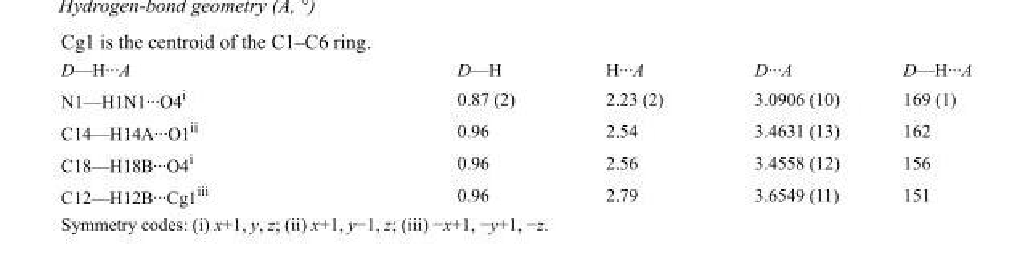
<table><tbody><tr><td>D—H···A</td><td>D—H</td><td>H···A</td><td>D···A</td><td>D—H···A</td></tr><tr><td>N1—H1N1···O4<sup>i</sup></td><td>0.87 (2)</td><td>2.23 (2)</td><td>3.0906 (10)</td><td>169 (1)</td></tr><tr><td>C14—H14A···O1<sup>ii</sup></td><td>0.96</td><td>2.54</td><td>3.4631 (13)</td><td>162</td></tr><tr><td>C18—H18B···O4<sup>i</sup></td><td>0.96</td><td>2.56</td><td>3.4558 (12)</td><td>156</td></tr><tr><td>C12—H12B···Cg1<sup>iii</sup></td><td>0.96</td><td>2.79</td><td>3.6549 (11)</td><td>151</td></tr></tbody></table>